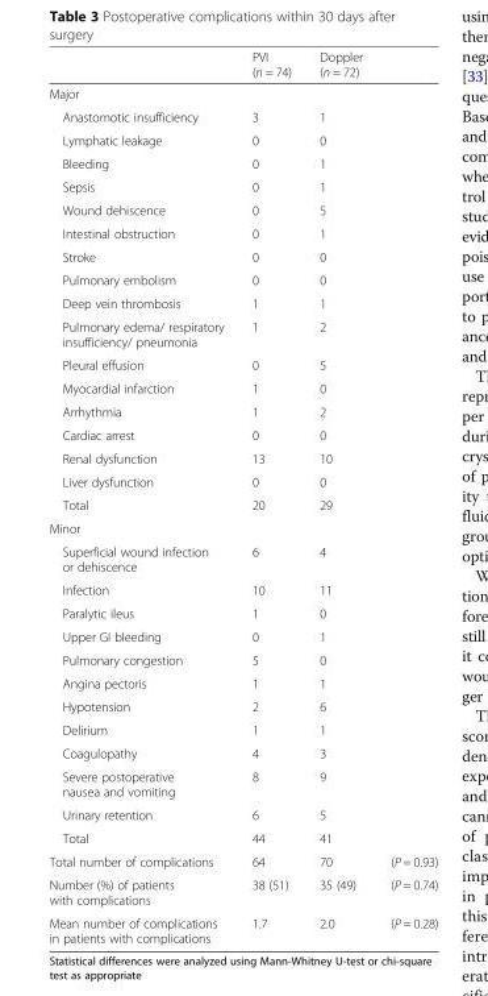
<table><thead><tr><td></td><td>PVI (n = 74)</td><td>Doppler (n = 72)</td><td></td></tr></thead><tbody><tr><td colspan="4">Major</td></tr><tr><td>Anastomotic insufficiency</td><td>3</td><td>1</td><td></td></tr><tr><td>Lymphatic leakage</td><td>0</td><td>0</td><td></td></tr><tr><td>Bleeding</td><td>0</td><td>1</td><td></td></tr><tr><td>Sepsis</td><td>0</td><td>1</td><td></td></tr><tr><td>Wound dehiscence</td><td>0</td><td>5</td><td></td></tr><tr><td>Intestinal obstruction</td><td>0</td><td>1</td><td></td></tr><tr><td>Stroke</td><td>0</td><td>0</td><td></td></tr><tr><td>Pulmonary embolism</td><td>0</td><td>0</td><td></td></tr><tr><td>Deep vein thrombosis</td><td>1</td><td>1</td><td></td></tr><tr><td>Pulmonary edema/ respiratory insufficiency/ pneumonia</td><td>1</td><td>2</td><td></td></tr><tr><td>Pleural effusion</td><td>0</td><td>5</td><td></td></tr><tr><td>Myocardial infarction</td><td>1</td><td>0</td><td></td></tr><tr><td>Arrhythmia</td><td>1</td><td>2</td><td></td></tr><tr><td>Cardiac arrest</td><td>0</td><td>0</td><td></td></tr><tr><td>Renal dysfunction</td><td>13</td><td>10</td><td></td></tr><tr><td>Liver dysfunction</td><td>0</td><td>0</td><td></td></tr><tr><td>Total</td><td>20</td><td>29</td><td></td></tr><tr><td colspan="4">Minor</td></tr><tr><td>Superficial wound infection or dehiscence</td><td>6</td><td>4</td><td></td></tr><tr><td>Infection</td><td>10</td><td>11</td><td></td></tr><tr><td>Paralytic ileus</td><td>1</td><td>0</td><td></td></tr><tr><td>Upper GI bleeding</td><td>0</td><td>1</td><td></td></tr><tr><td>Pulmonary congestion</td><td>5</td><td>0</td><td></td></tr><tr><td>Angina pectoris</td><td>1</td><td>1</td><td></td></tr><tr><td>Hypotension</td><td>2</td><td>6</td><td></td></tr><tr><td>Delirium</td><td>1</td><td>1</td><td></td></tr><tr><td>Coagulopathy</td><td>4</td><td>3</td><td></td></tr><tr><td>Severe postoperative nausea and vomiting</td><td>8</td><td>9</td><td></td></tr><tr><td>Urinary retention</td><td>6</td><td>5</td><td></td></tr><tr><td>Total</td><td>44</td><td>41</td><td></td></tr><tr><td>Total number of complications</td><td>64</td><td>70</td><td>(P = 0.93)</td></tr><tr><td>Number (%) of patients with complications</td><td>38 (51)</td><td>35 (49)</td><td>(P = 0.74)</td></tr><tr><td>Mean number of complications in patients with complications</td><td>1.7</td><td>2.0</td><td>(P = 0.28)</td></tr></tbody></table>